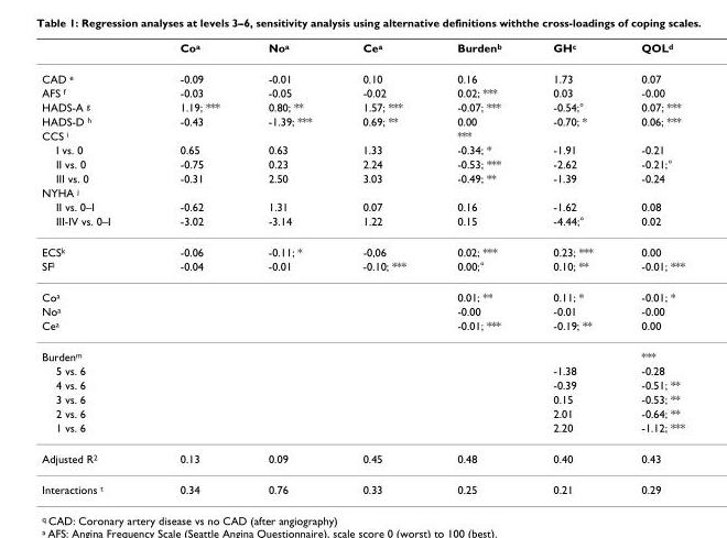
<table><thead><tr><td></td><td>Co<sup>a</sup></td><td>No<sup>a</sup></td><td>Ce<sup>a</sup></td><td>Burden<sup>b</sup></td><td>GH<sup>c</sup></td><td>QOL<sup>d</sup></td></tr></thead><tbody><tr><td>CAD <sup>e</sup></td><td>-0.09</td><td>-0.01</td><td>0.10</td><td>0.16</td><td>1.73</td><td>0.07</td></tr><tr><td>AFS <sup>f</sup></td><td>-0.03</td><td>-0.05</td><td>-0.02</td><td>0.02; ***</td><td>0.03</td><td>-0.00</td></tr><tr><td>HADS-A <sup>g</sup></td><td>1.19; ***</td><td>0.80; **</td><td>1.57; ***</td><td>-0.07; ***</td><td>-0.54;°</td><td>0.07; ***</td></tr><tr><td>HADS-D <sup>h</sup></td><td>-0.43</td><td>-1.39; ***</td><td>0.69; **</td><td>0.00</td><td>-0.70; *</td><td>0.06; ***</td></tr><tr><td>CCS <sup>i</sup></td><td></td><td></td><td></td><td>***</td><td></td><td></td></tr><tr><td>I vs. 0</td><td>0.65</td><td>0.63</td><td>1.33</td><td>-0.34; *</td><td>-1.91</td><td>-0.21</td></tr><tr><td>II vs. 0</td><td>-0.75</td><td>0.23</td><td>2.24</td><td>-0.53; ***</td><td>-2.62</td><td>-0.21;°</td></tr><tr><td>III vs. 0</td><td>-0.31</td><td>2.50</td><td>3.03</td><td>-0.49; **</td><td>-1.39</td><td>-0.24</td></tr><tr><td colspan="7">NYHA <sup>j</sup></td></tr><tr><td>II vs. 0–I</td><td>-0.62</td><td>1.31</td><td>0.07</td><td>0.16</td><td>-1.62</td><td>0.08</td></tr><tr><td>III-IV vs. 0–I</td><td>-3.02</td><td>-3.14</td><td>1.22</td><td>0.15</td><td>-4.44;°</td><td>0.02</td></tr><tr><td>ECS<sup>k</sup></td><td>-0.06</td><td>-0.11; *</td><td>-0,06</td><td>0.02; ***</td><td>0.23; ***</td><td>0.00</td></tr><tr><td>SF<sup>l</sup></td><td>-0.04</td><td>-0.01</td><td>-0.10; ***</td><td>0.00;°</td><td>0.10; **</td><td>-0.01; ***</td></tr><tr><td>Co<sup>a</sup></td><td></td><td></td><td></td><td>0.01; **</td><td>0.11; *</td><td>-0.01; *</td></tr><tr><td>No<sup>a</sup></td><td></td><td></td><td></td><td>-0.00</td><td>-0.01</td><td>-0.00</td></tr><tr><td>Ce<sup>a</sup></td><td></td><td></td><td></td><td>-0.01; ***</td><td>-0.19; **</td><td>0.00</td></tr><tr><td>Burden<sup>m</sup></td><td></td><td></td><td></td><td></td><td></td><td>***</td></tr><tr><td>5 vs. 6</td><td></td><td></td><td></td><td></td><td>-1.38</td><td>-0.28</td></tr><tr><td>4 vs. 6</td><td></td><td></td><td></td><td></td><td>-0.39</td><td>-0.51; **</td></tr><tr><td>3 vs. 6</td><td></td><td></td><td></td><td></td><td>0.15</td><td>-0.53; **</td></tr><tr><td>2 vs. 6</td><td></td><td></td><td></td><td></td><td>2.01</td><td>-0.64; **</td></tr><tr><td>1 vs. 6</td><td></td><td></td><td></td><td></td><td>2.20</td><td>-1.12; ***</td></tr><tr><td>Adjusted R<sup>2</sup></td><td>0.13</td><td>0.09</td><td>0.45</td><td>0.48</td><td>0.40</td><td>0.43</td></tr><tr><td>Interactions <sup>t</sup></td><td>0.34</td><td>0.76</td><td>0.33</td><td>0.25</td><td>0.21</td><td>0.29</td></tr></tbody></table>